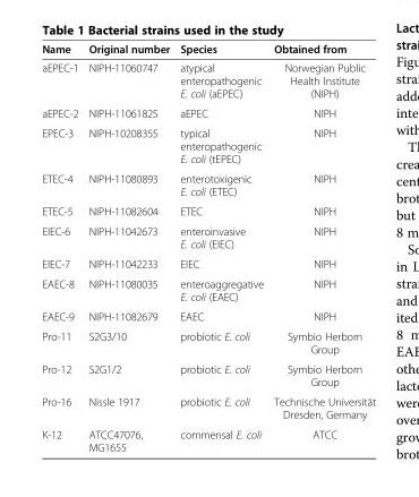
<table><thead><tr><td>Name</td><td>Original number</td><td>Species</td><td>Obtained from</td></tr></thead><tbody><tr><td>aEPEC-1</td><td>NIPH-11060747</td><td>atypical enteropathogenic E. coli (aEPEC)</td><td>Norwegian Public Health Institute (NIPH)</td></tr><tr><td>aEPEC-2</td><td>NIPH-11061825</td><td>aEPEC</td><td>NIPH</td></tr><tr><td>EPEC-3</td><td>NIPH-10208355</td><td>typical enteropathogenic E. coli (tEPEC)</td><td>NIPH</td></tr><tr><td>ETEC-4</td><td>NIPH-11080893</td><td>enterotoxigenic E. coli (ETEC)</td><td>NIPH</td></tr><tr><td>ETEC-5</td><td>NIPH-11082604</td><td>ETEC</td><td>NIPH</td></tr><tr><td>EIEC-6</td><td>NIPH-11042673</td><td>enteroinvasive E. coli (EIEC)</td><td>NIPH</td></tr><tr><td>EIEC-7</td><td>NIPH-11042233</td><td>EIEC</td><td>NIPH</td></tr><tr><td>EAEC-8</td><td>NIPH-11080035</td><td>enteroaggregative E. coli (EAEC)</td><td>NIPH</td></tr><tr><td>EAEC-9</td><td>NIPH-11082679</td><td>EAEC</td><td>NIPH</td></tr><tr><td>Pro-11</td><td>S2G3/10</td><td>probiotic E. coli</td><td>Symbio Herborn Group</td></tr><tr><td>Pro-12</td><td>S2G1/2</td><td>probiotic E. coli</td><td>Symbio Herborn Group</td></tr><tr><td>Pro-16</td><td>Nissle 1917</td><td>probiotic E. coli</td><td>Technische Universität Dresden, Germany</td></tr><tr><td>K-12</td><td>ATCC47076, MG1655</td><td>commensal E. coli</td><td>ATCC</td></tr></tbody></table>